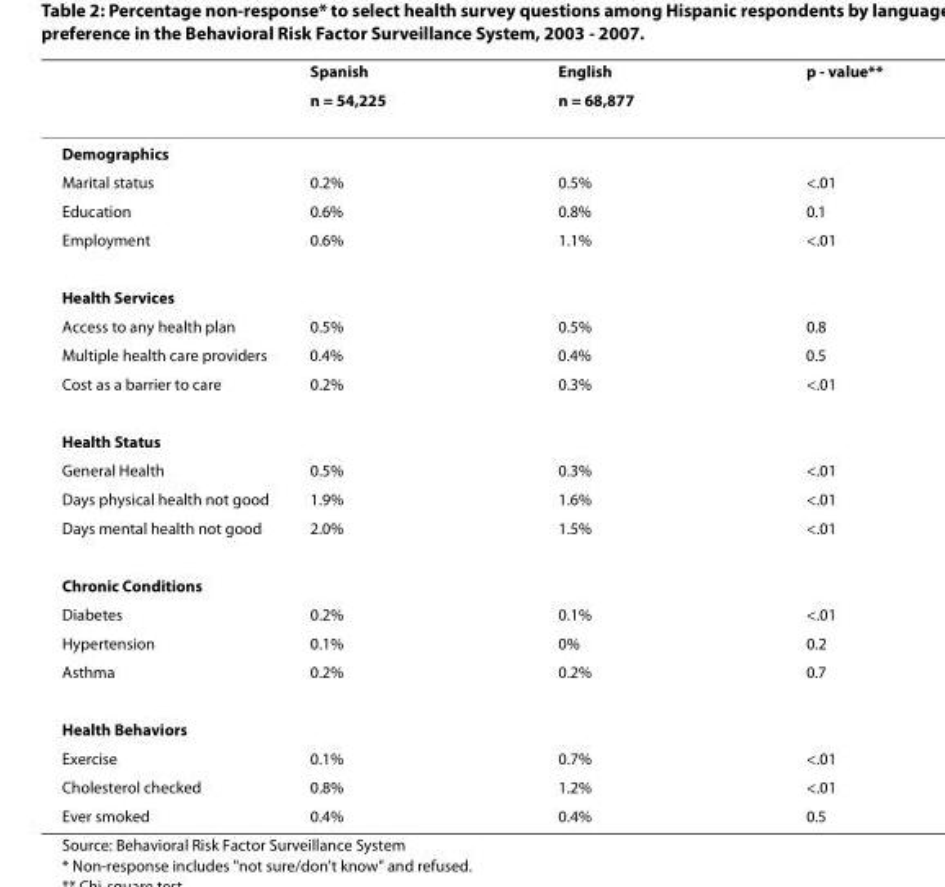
<table><thead><tr><td rowspan="2"></td><td rowspan="2">Spanish n = 54,225</td><td rowspan="2">English n = 68,877</td><td rowspan="2">p - value**</td></tr><tr></tr></thead><tbody><tr><td colspan="4">Demographics</td></tr><tr><td>Marital status</td><td>0.2%</td><td>0.5%</td><td>&lt;.01</td></tr><tr><td>Education</td><td>0.6%</td><td>0.8%</td><td>0.1</td></tr><tr><td>Employment</td><td>0.6%</td><td>1.1%</td><td>&lt;.01</td></tr><tr><td colspan="4">Health Services</td></tr><tr><td>Access to any health plan</td><td>0.5%</td><td>0.5%</td><td>0.8</td></tr><tr><td>Multiple health care providers</td><td>0.4%</td><td>0.4%</td><td>0.5</td></tr><tr><td>Cost as a barrier to care</td><td>0.2%</td><td>0.3%</td><td>&lt;.01</td></tr><tr><td colspan="4">Health Status</td></tr><tr><td>General Health</td><td>0.5%</td><td>0.3%</td><td>&lt;.01</td></tr><tr><td>Days physical health not good</td><td>1.9%</td><td>1.6%</td><td>&lt;.01</td></tr><tr><td>Days mental health not good</td><td>2.0%</td><td>1.5%</td><td>&lt;.01</td></tr><tr><td colspan="4">Chronic Conditions</td></tr><tr><td>Diabetes</td><td>0.2%</td><td>0.1%</td><td>&lt;.01</td></tr><tr><td>Hypertension</td><td>0.1%</td><td>0%</td><td>0.2</td></tr><tr><td>Asthma</td><td>0.2%</td><td>0.2%</td><td>0.7</td></tr><tr><td colspan="4">Health Behaviors</td></tr><tr><td>Exercise</td><td>0.1%</td><td>0.7%</td><td>&lt;.01</td></tr><tr><td>Cholesterol checked</td><td>0.8%</td><td>1.2%</td><td>&lt;.01</td></tr><tr><td>Ever smoked</td><td>0.4%</td><td>0.4%</td><td>0.5</td></tr></tbody></table>